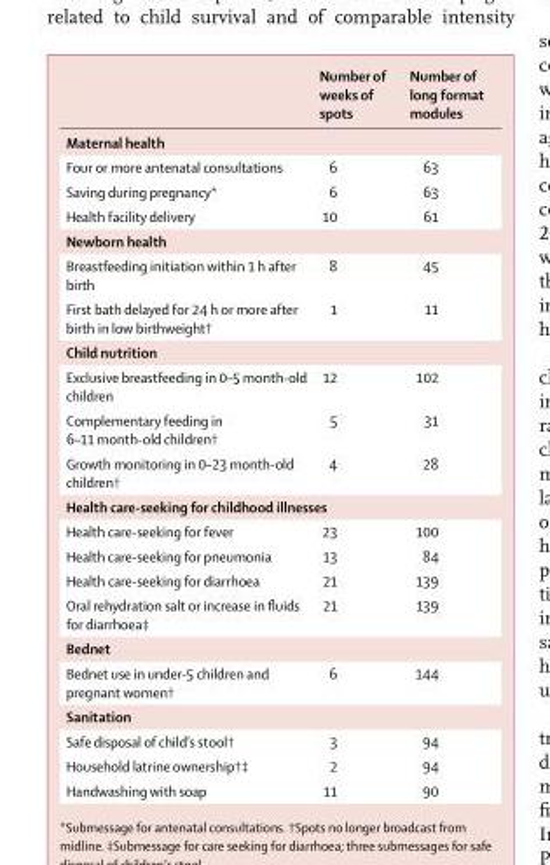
<table><thead><tr><td></td><td>Number of weeks of spots</td><td>Number of long format modules</td></tr></thead><tbody><tr><td colspan="3">Maternal health</td></tr><tr><td>Four or more antenatal consultations</td><td>6</td><td>63</td></tr><tr><td>Saving during pregnancy*</td><td>6</td><td>63</td></tr><tr><td>Health facility delivery</td><td>10</td><td>61</td></tr><tr><td colspan="3">Newborn health</td></tr><tr><td>Breastfeeding initiation within 1 h after birth</td><td>8</td><td>45</td></tr><tr><td>First bath delayed for 24 h or more after birth in low birthweight†</td><td>1</td><td>11</td></tr><tr><td colspan="3">Child nutrition</td></tr><tr><td>Exclusive breastfeeding in 0–5 month-old children</td><td>12</td><td>102</td></tr><tr><td>Complementary feeding in 6–11 month-old children†</td><td>5</td><td>31</td></tr><tr><td>Growth monitoring in 0–23 month-old children†</td><td>4</td><td>28</td></tr><tr><td colspan="3">Health care-seeking for childhood illnesses</td></tr><tr><td>Health care-seeking for fever</td><td>23</td><td>100</td></tr><tr><td>Health care-seeking for pneumonia</td><td>13</td><td>84</td></tr><tr><td>Health care-seeking for diarrhoea</td><td>21</td><td>139</td></tr><tr><td>Oral rehydration salt or increase in fluids for diarrhoea‡</td><td>21</td><td>139</td></tr><tr><td colspan="3">Bednet</td></tr><tr><td>Bednet use in under-5 children and pregnant women†</td><td>6</td><td>144</td></tr><tr><td colspan="3">Sanitation</td></tr><tr><td>Safe disposal of child’s stool†</td><td>3</td><td>94</td></tr><tr><td>Household latrine ownership†‡</td><td>2</td><td>94</td></tr><tr><td>Handwashing with soap</td><td>11</td><td>90</td></tr></tbody></table>